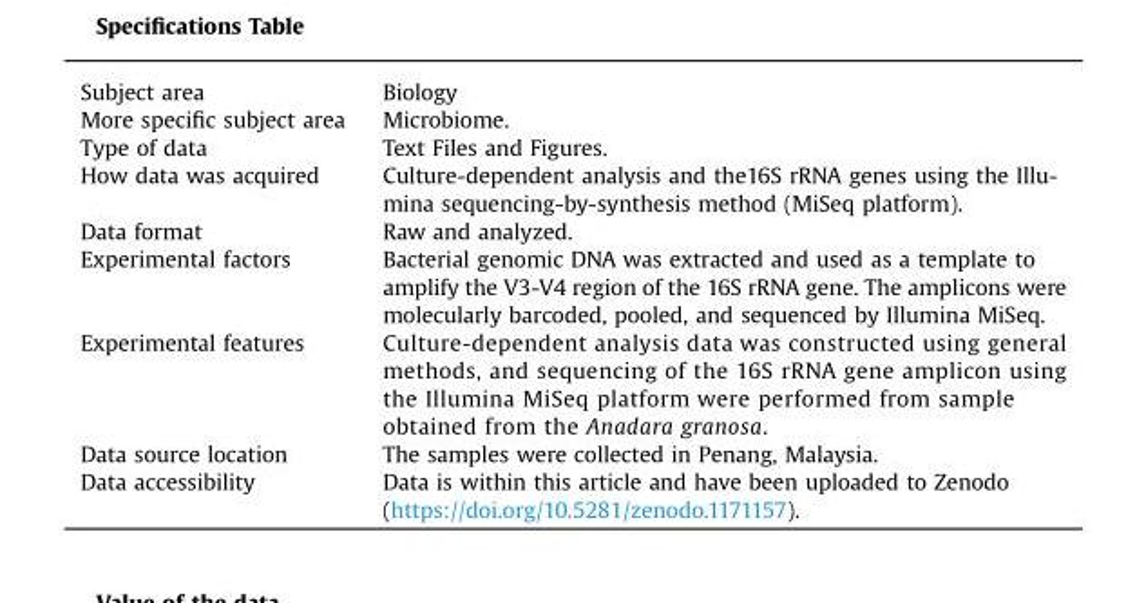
<table><thead><tr><td>Subject area</td><td>Biology</td></tr></thead><tbody><tr><td>More specific subject area</td><td>Microbiome.</td></tr><tr><td>Type of data</td><td>Text Files and Figures.</td></tr><tr><td>How data was acquired</td><td>Culture-dependent analysis and the16S rRNA genes using the Illu- mina sequencing-by-synthesis method (MiSeq platform).</td></tr><tr><td>Data format</td><td>Raw and analyzed.</td></tr><tr><td>Experimental factors</td><td>Bacterial genomic DNA was extracted and used as a template to amplify the V3-V4 region of the 16S rRNA gene. The amplicons were molecularly barcoded, pooled, and sequenced by Illumina MiSeq.</td></tr><tr><td>Experimental features</td><td>Culture-dependent analysis data was constructed using general methods, and sequencing of the 16S rRNA gene amplicon using the Illumina MiSeq platform were performed from sample obtained from the Anadara granosa.</td></tr><tr><td>Data source location</td><td>The samples were collected in Penang, Malaysia.</td></tr><tr><td>Data accessibility</td><td>Data is within this article and have been uploaded to Zenodo (https://doi.org/10.5281/zenodo.1171157).</td></tr></tbody></table>